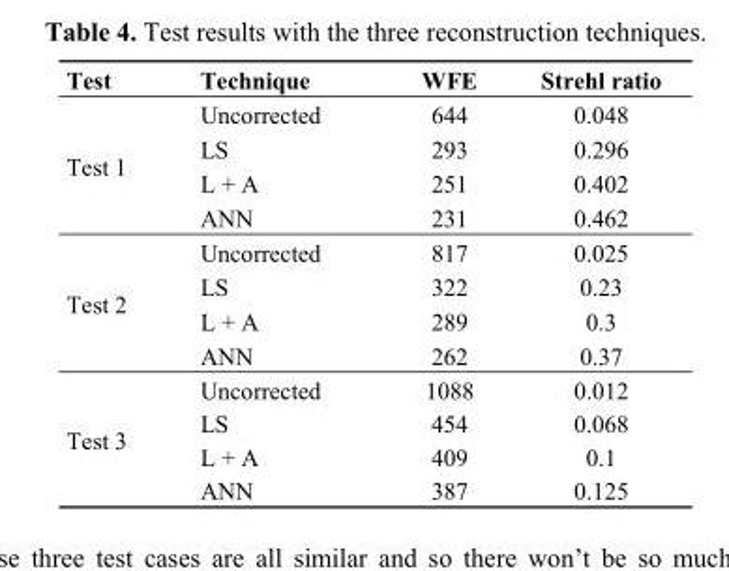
<table><thead><tr><td>Test</td><td>Technique</td><td>WFE</td><td>Strehl ratio</td></tr></thead><tbody><tr><td rowspan="4">Test 1</td><td>Uncorrected</td><td>644</td><td>0.048</td></tr><tr><td>LS</td><td>293</td><td>0.296</td></tr><tr><td>L + A</td><td>251</td><td>0.402</td></tr><tr><td>ANN</td><td>231</td><td>0.462</td></tr><tr><td rowspan="4">Test 2</td><td>Uncorrected</td><td>817</td><td>0.025</td></tr><tr><td>LS</td><td>322</td><td>0.23</td></tr><tr><td>L + A</td><td>289</td><td>0.3</td></tr><tr><td>ANN</td><td>262</td><td>0.37</td></tr><tr><td rowspan="4">Test 3</td><td>Uncorrected</td><td>1088</td><td>0.012</td></tr><tr><td>LS</td><td>454</td><td>0.068</td></tr><tr><td>L + A</td><td>409</td><td>0.1</td></tr><tr><td>ANN</td><td>387</td><td>0.125</td></tr></tbody></table>